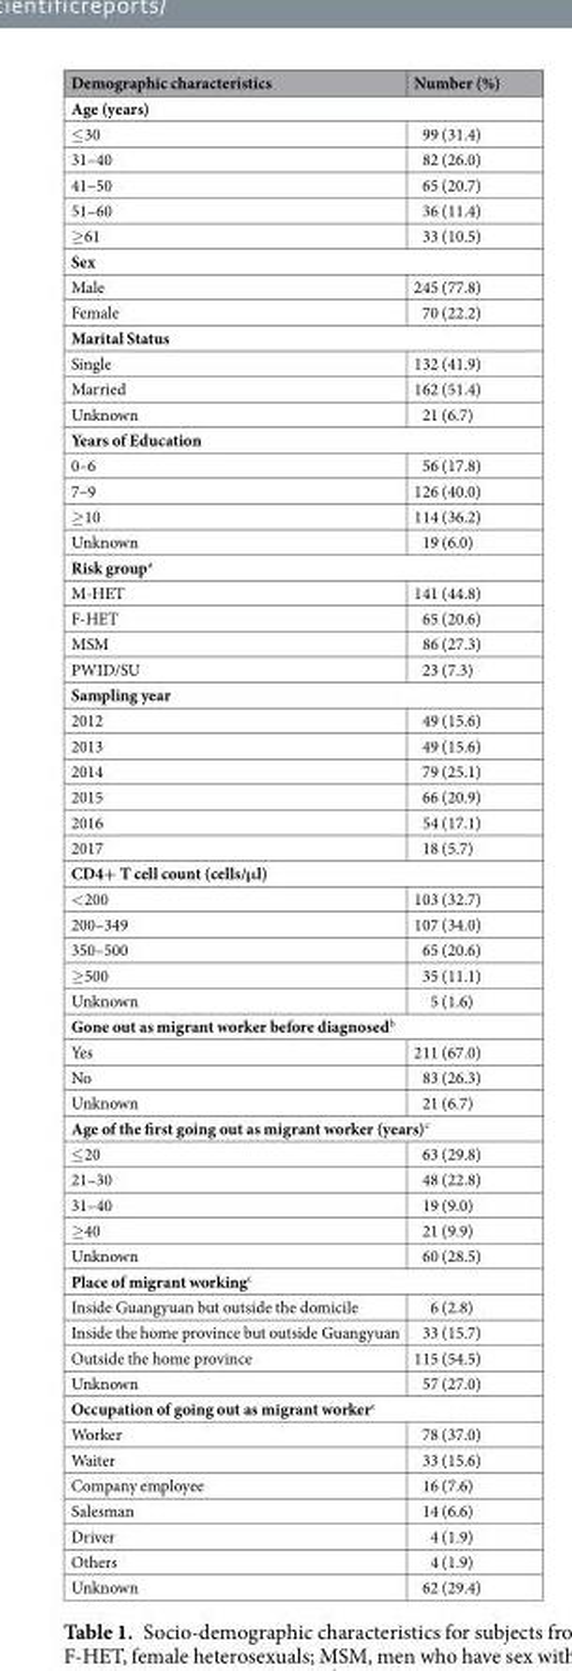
<table><thead><tr><td>Demographic characteristics</td><td>Number (%)</td></tr></thead><tbody><tr><td colspan="2">Age (years)</td></tr><tr><td>≤30</td><td>99 (31.4)</td></tr><tr><td>31–40</td><td>82 (26.0)</td></tr><tr><td>41–50</td><td>65 (20.7)</td></tr><tr><td>51–60</td><td>36 (11.4)</td></tr><tr><td>≥61</td><td>33 (10.5)</td></tr><tr><td colspan="2">Sex</td></tr><tr><td>Male</td><td>245 (77.8)</td></tr><tr><td>Female</td><td>70 (22.2)</td></tr><tr><td colspan="2">Marital Status</td></tr><tr><td>Single</td><td>132 (41.9)</td></tr><tr><td>Married</td><td>162 (51.4)</td></tr><tr><td>Unknown</td><td>21 (6.7)</td></tr><tr><td colspan="2">Years of Education</td></tr><tr><td>0–6</td><td>56 (17.8)</td></tr><tr><td>7–9</td><td>126 (40.0)</td></tr><tr><td>≥10</td><td>114 (36.2)</td></tr><tr><td>Unknown</td><td>19 (6.0)</td></tr><tr><td colspan="2">Risk group<sup>a</sup></td></tr><tr><td>M-HET</td><td>141 (44.8)</td></tr><tr><td>F-HET</td><td>65 (20.6)</td></tr><tr><td>MSM</td><td>86 (27.3)</td></tr><tr><td>PWID/SU</td><td>23 (7.3)</td></tr><tr><td colspan="2">Sampling year</td></tr><tr><td>2012</td><td>49 (15.6)</td></tr><tr><td>2013</td><td>49 (15.6)</td></tr><tr><td>2014</td><td>79 (25.1)</td></tr><tr><td>2015</td><td>66 (20.9)</td></tr><tr><td>2016</td><td>54 (17.1)</td></tr><tr><td>2017</td><td>18 (5.7)</td></tr><tr><td colspan="2">CD4+ T cell count (cells/μl)</td></tr><tr><td>&lt;200</td><td>103 (32.7)</td></tr><tr><td>200–349</td><td>107 (34.0)</td></tr><tr><td>350–500</td><td>65 (20.6)</td></tr><tr><td>≥500</td><td>35 (11.1)</td></tr><tr><td>Unknown</td><td>5 (1.6)</td></tr><tr><td colspan="2">Gone out as migrant worker before diagnosed<sup>b</sup></td></tr><tr><td>Yes</td><td>211 (67.0)</td></tr><tr><td>No</td><td>83 (26.3)</td></tr><tr><td>Unknown</td><td>21 (6.7)</td></tr><tr><td colspan="2">Age of the first going out as migrant worker (years)<sup>c</sup></td></tr><tr><td>≤20</td><td>63 (29.8)</td></tr><tr><td>21–30</td><td>48 (22.8)</td></tr><tr><td>31–40</td><td>19 (9.0)</td></tr><tr><td>≥40</td><td>21 (9.9)</td></tr><tr><td>Unknown</td><td>60 (28.5)</td></tr><tr><td colspan="2">Place of migrant working<sup>c</sup></td></tr><tr><td>Inside Guangyuan but outside the domicile</td><td>6 (2.8)</td></tr><tr><td>Inside the home province but outside Guangyuan</td><td>33 (15.7)</td></tr><tr><td>Outside the home province</td><td>115 (54.5)</td></tr><tr><td>Unknown</td><td>57 (27.0)</td></tr><tr><td colspan="2">Occupation of going out as migrant worker<sup>c</sup></td></tr><tr><td>Worker</td><td>78 (37.0)</td></tr><tr><td>Waiter</td><td>33 (15.6)</td></tr><tr><td>Company employee</td><td>16 (7.6)</td></tr><tr><td>Salesman</td><td>14 (6.6)</td></tr><tr><td>Driver</td><td>4 (1.9)</td></tr><tr><td>Others</td><td>4 (1.9)</td></tr><tr><td>Unknown</td><td>62 (29.4)</td></tr></tbody></table>